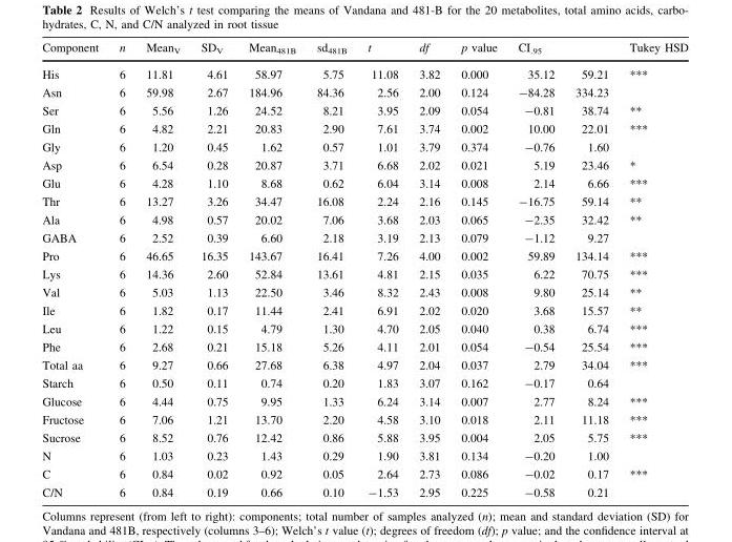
<table><thead><tr><td rowspan="2">Component His</td><td rowspan="2">n 6</td><td rowspan="2">Mean<sub>V</sub> 11.81</td><td rowspan="2">SD<sub>V</sub> 4.61</td><td rowspan="2">Mean<sub>481B</sub> 58.97</td><td rowspan="2">sd<sub>481B</sub> 5.75</td><td rowspan="2">t 11.08</td><td rowspan="2">df 3.82</td><td rowspan="2">p value 0.000</td><td colspan="2">CI<sub>.95</sub></td><td rowspan="2">Tukey HSD ***</td></tr><tr><td>35.12</td><td>59.21</td></tr></thead><tbody><tr><td>Asn</td><td>6</td><td>59.98</td><td>2.67</td><td>184.96</td><td>84.36</td><td>2.56</td><td>2.00</td><td>0.124</td><td>-84.28</td><td>334.23</td><td></td></tr><tr><td>Ser</td><td>6</td><td>5.56</td><td>1.26</td><td>24.52</td><td>8.21</td><td>3.95</td><td>2.09</td><td>0.054</td><td>-0.81</td><td>38.74</td><td>**</td></tr><tr><td>Gln</td><td>6</td><td>4.82</td><td>2.21</td><td>20.83</td><td>2.90</td><td>7.61</td><td>3.74</td><td>0.002</td><td>10.00</td><td>22.01</td><td>***</td></tr><tr><td>Gly</td><td>6</td><td>1.20</td><td>0.45</td><td>1.62</td><td>0.57</td><td>1.01</td><td>3.79</td><td>0.374</td><td>-0.76</td><td>1.60</td><td></td></tr><tr><td>Asp</td><td>6</td><td>6.54</td><td>0.28</td><td>20.87</td><td>3.71</td><td>6.68</td><td>2.02</td><td>0.021</td><td>5.19</td><td>23.46</td><td>*</td></tr><tr><td>Glu</td><td>6</td><td>4.28</td><td>1.10</td><td>8.68</td><td>0.62</td><td>6.04</td><td>3.14</td><td>0.008</td><td>2.14</td><td>6.66</td><td>***</td></tr><tr><td>Thr</td><td>6</td><td>13.27</td><td>3.26</td><td>34.47</td><td>16.08</td><td>2.24</td><td>2.16</td><td>0.145</td><td>-16.75</td><td>59.14</td><td>**</td></tr><tr><td>Ala</td><td>6</td><td>4.98</td><td>0.57</td><td>20.02</td><td>7.06</td><td>3.68</td><td>2.03</td><td>0.065</td><td>-2.35</td><td>32.42</td><td>**</td></tr><tr><td>GABA</td><td>6</td><td>2.52</td><td>0.39</td><td>6.60</td><td>2.18</td><td>3.19</td><td>2.13</td><td>0.079</td><td>-1.12</td><td>9.27</td><td></td></tr><tr><td>Pro</td><td>6</td><td>46.65</td><td>16.35</td><td>143.67</td><td>16.41</td><td>7.26</td><td>4.00</td><td>0.002</td><td>59.89</td><td>134.14</td><td>***</td></tr><tr><td>Lys</td><td>6</td><td>14.36</td><td>2.60</td><td>52.84</td><td>13.61</td><td>4.81</td><td>2.15</td><td>0.035</td><td>6.22</td><td>70.75</td><td>***</td></tr><tr><td>Val</td><td>6</td><td>5.03</td><td>1.13</td><td>22.50</td><td>3.46</td><td>8.32</td><td>2.43</td><td>0.008</td><td>9.80</td><td>25.14</td><td>**</td></tr><tr><td>Ile</td><td>6</td><td>1.82</td><td>0.17</td><td>11.44</td><td>2.41</td><td>6.91</td><td>2.02</td><td>0.020</td><td>3.68</td><td>15.57</td><td>**</td></tr><tr><td>Leu</td><td>6</td><td>1.22</td><td>0.15</td><td>4.79</td><td>1.30</td><td>4.70</td><td>2.05</td><td>0.040</td><td>0.38</td><td>6.74</td><td>***</td></tr><tr><td>Phe</td><td>6</td><td>2.68</td><td>0.21</td><td>15.18</td><td>5.26</td><td>4.11</td><td>2.01</td><td>0.054</td><td>-0.54</td><td>25.54</td><td>***</td></tr><tr><td>Total aa</td><td>6</td><td>9.27</td><td>0.66</td><td>27.68</td><td>6.38</td><td>4.97</td><td>2.04</td><td>0.037</td><td>2.79</td><td>34.04</td><td>***</td></tr><tr><td>Starch</td><td>6</td><td>0.50</td><td>0.11</td><td>0.74</td><td>0.20</td><td>1.83</td><td>3.07</td><td>0.162</td><td>-0.17</td><td>0.64</td><td></td></tr><tr><td>Glucose</td><td>6</td><td>4.44</td><td>0.75</td><td>9.95</td><td>1.33</td><td>6.24</td><td>3.14</td><td>0.007</td><td>2.77</td><td>8.24</td><td>***</td></tr><tr><td>Fructose</td><td>6</td><td>7.06</td><td>1.21</td><td>13.70</td><td>2.20</td><td>4.58</td><td>3.10</td><td>0.018</td><td>2.11</td><td>11.18</td><td>***</td></tr><tr><td>Sucrose</td><td>6</td><td>8.52</td><td>0.76</td><td>12.42</td><td>0.86</td><td>5.88</td><td>3.95</td><td>0.004</td><td>2.05</td><td>5.75</td><td>***</td></tr><tr><td>N</td><td>6</td><td>1.03</td><td>0.23</td><td>1.43</td><td>0.29</td><td>1.90</td><td>3.81</td><td>0.134</td><td>-0.20</td><td>1.00</td><td></td></tr><tr><td>C</td><td>6</td><td>0.84</td><td>0.02</td><td>0.92</td><td>0.05</td><td>2.64</td><td>2.73</td><td>0.086</td><td>-0.02</td><td>0.17</td><td>***</td></tr><tr><td>C/N</td><td>6</td><td>0.84</td><td>0.19</td><td>0.66</td><td>0.10</td><td>-1.53</td><td>2.95</td><td>0.225</td><td>-0.58</td><td>0.21</td><td></td></tr></tbody></table>